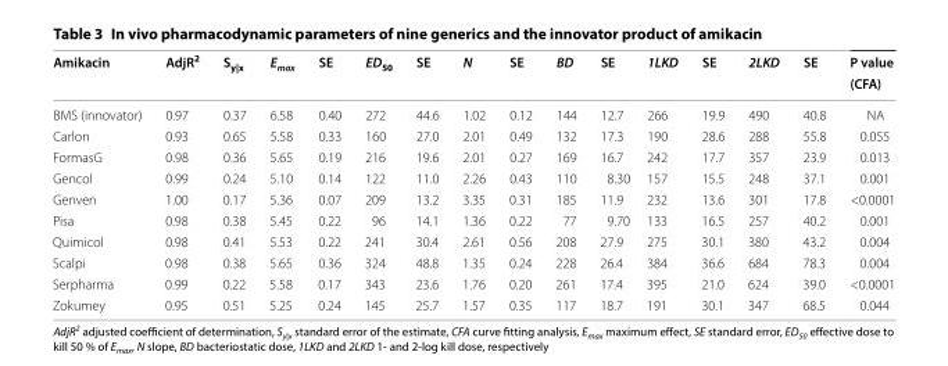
<table><thead><tr><td rowspan="2">Amikacin</td><td rowspan="2">AdjR<sup>2</sup></td><td rowspan="2">S<sub>y|x</sub></td><td rowspan="2">E<sub>max</sub></td><td rowspan="2">SE</td><td rowspan="2">ED<sub>50</sub></td><td rowspan="2">SE</td><td rowspan="2">N</td><td rowspan="2">SE</td><td rowspan="2">BD</td><td rowspan="2">SE</td><td rowspan="2">1LKD</td><td rowspan="2">SE</td><td rowspan="2">2LKD</td><td rowspan="2">SE</td><td rowspan="2">P value (CFA)</td></tr><tr></tr></thead><tbody><tr><td>BMS (innovator)</td><td>0.97</td><td>0.37</td><td>6.58</td><td>0.40</td><td>272</td><td>44.6</td><td>1.02</td><td>0.12</td><td>144</td><td>12.7</td><td>266</td><td>19.9</td><td>490</td><td>40.8</td><td>NA</td></tr><tr><td>Carlon</td><td>0.93</td><td>0.65</td><td>5.58</td><td>0.33</td><td>160</td><td>27.0</td><td>2.01</td><td>0.49</td><td>132</td><td>17.3</td><td>190</td><td>28.6</td><td>288</td><td>55.8</td><td>0.055</td></tr><tr><td>FormasG</td><td>0.98</td><td>0.36</td><td>5.65</td><td>0.19</td><td>216</td><td>19.6</td><td>2.01</td><td>0.27</td><td>169</td><td>16.7</td><td>242</td><td>17.7</td><td>357</td><td>23.9</td><td>0.013</td></tr><tr><td>Gencol</td><td>0.99</td><td>0.24</td><td>5.10</td><td>0.14</td><td>122</td><td>11.0</td><td>2.26</td><td>0.43</td><td>110</td><td>8.30</td><td>157</td><td>15.5</td><td>248</td><td>37.1</td><td>0.001</td></tr><tr><td>Genven</td><td>1.00</td><td>0.17</td><td>5.36</td><td>0.07</td><td>209</td><td>13.2</td><td>3.35</td><td>0.31</td><td>185</td><td>11.9</td><td>232</td><td>13.6</td><td>301</td><td>17.8</td><td>&lt;0.0001</td></tr><tr><td>Pisa</td><td>0.98</td><td>0.38</td><td>5.45</td><td>0.22</td><td>96</td><td>14.1</td><td>1.36</td><td>0.22</td><td>77</td><td>9.70</td><td>133</td><td>16.5</td><td>257</td><td>40.2</td><td>0.001</td></tr><tr><td>Quimicol</td><td>0.98</td><td>0.41</td><td>5.53</td><td>0.22</td><td>241</td><td>30.4</td><td>2.61</td><td>0.56</td><td>208</td><td>27.9</td><td>275</td><td>30.1</td><td>380</td><td>43.2</td><td>0.004</td></tr><tr><td>Scalpi</td><td>0.98</td><td>0.38</td><td>5.65</td><td>0.36</td><td>324</td><td>48.8</td><td>1.35</td><td>0.24</td><td>228</td><td>26.4</td><td>384</td><td>36.6</td><td>684</td><td>78.3</td><td>0.004</td></tr><tr><td>Serpharma</td><td>0.99</td><td>0.22</td><td>5.58</td><td>0.17</td><td>343</td><td>23.6</td><td>1.76</td><td>0.20</td><td>261</td><td>17.4</td><td>395</td><td>21.0</td><td>624</td><td>39.0</td><td>&lt;0.0001</td></tr><tr><td>Zokumey</td><td>0.95</td><td>0.51</td><td>5.25</td><td>0.24</td><td>145</td><td>25.7</td><td>1.57</td><td>0.35</td><td>117</td><td>18.7</td><td>191</td><td>30.1</td><td>347</td><td>68.5</td><td>0.044</td></tr></tbody></table>